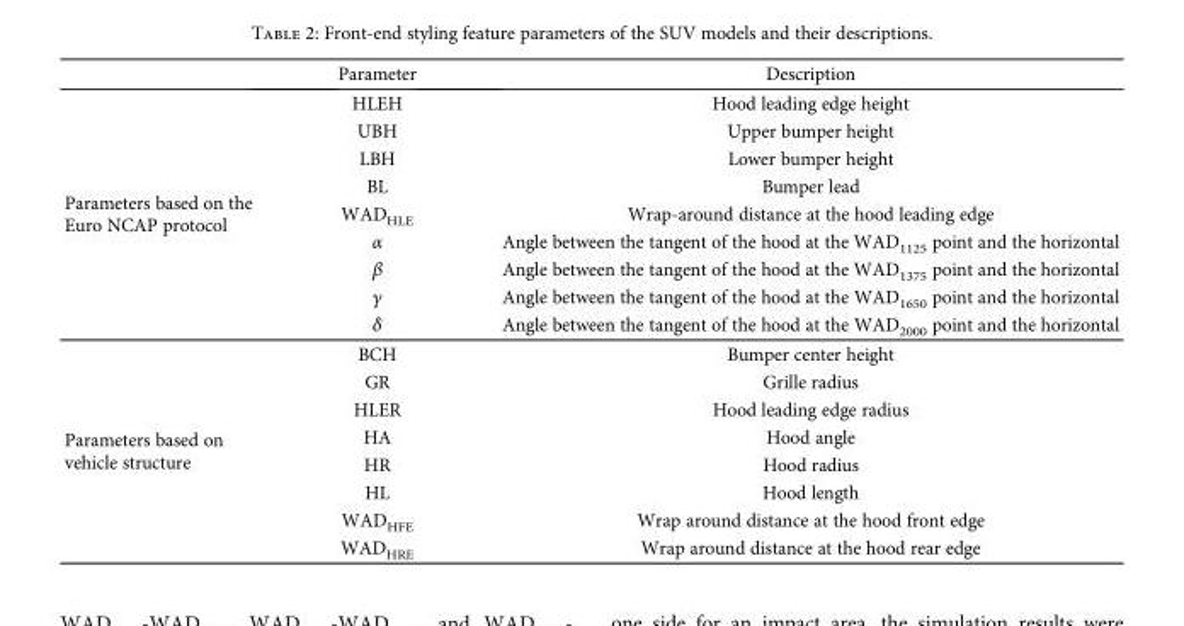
<table><thead><tr><td></td><td>Parameter</td><td>Description</td></tr></thead><tbody><tr><td rowspan="9">Parameters based on the Euro NCAP protocol</td><td>HLEH</td><td>Hood leading edge height</td></tr><tr><td>UBH</td><td>Upper bumper height</td></tr><tr><td>LBH</td><td>Lower bumper height</td></tr><tr><td>BL</td><td>Bumper lead</td></tr><tr><td>WAD<sub>HLE</sub></td><td>Wrap-around distance at the hood leading edge</td></tr><tr><td>α</td><td>Angle between the tangent of the hood at the WAD<sub>1125</sub> point and the horizontal</td></tr><tr><td>β</td><td>Angle between the tangent of the hood at the WAD<sub>1375</sub> point and the horizontal</td></tr><tr><td>γ</td><td>Angle between the tangent of the hood at the WAD<sub>1650</sub> point and the horizontal</td></tr><tr><td>δ</td><td>Angle between the tangent of the hood at the WAD<sub>2000</sub> point and the horizontal</td></tr><tr><td rowspan="8">Parameters based on vehicle structure</td><td>BCH</td><td>Bumper center height</td></tr><tr><td>GR</td><td>Grille radius</td></tr><tr><td>HLER</td><td>Hood leading edge radius</td></tr><tr><td>HA</td><td>Hood angle</td></tr><tr><td>HR</td><td>Hood radius</td></tr><tr><td>HL</td><td>Hood length</td></tr><tr><td>WAD<sub>HFE</sub></td><td>Wrap around distance at the hood front edge</td></tr><tr><td>WAD<sub>HRE</sub></td><td>Wrap around distance at the hood rear edge</td></tr></tbody></table>